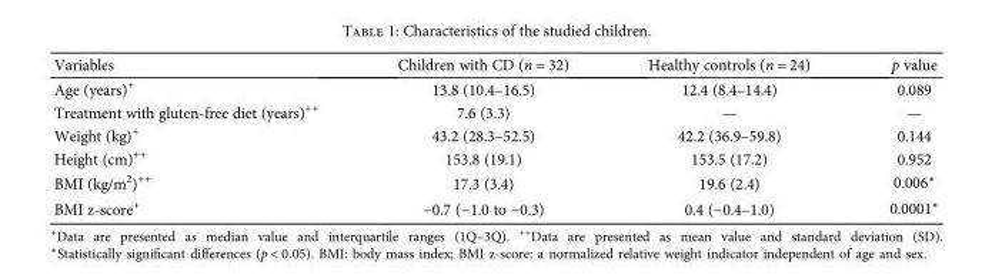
<table><thead><tr><td>Variables</td><td>Children with CD (n = 32)</td><td>Healthy controls (n = 24)</td><td>p value</td></tr></thead><tbody><tr><td>Age (years)<sup>+</sup></td><td>13.8 (10.4–16.5)</td><td>12.4 (8.4–14.4)</td><td>0.089</td></tr><tr><td>Treatment with gluten-free diet (years)<sup>++</sup></td><td>7.6 (3.3)</td><td>—</td><td>—</td></tr><tr><td>Weight (kg)<sup>+</sup></td><td>43.2 (28.3–52.5)</td><td>42.2 (36.9–59.8)</td><td>0.144</td></tr><tr><td>Height (cm)<sup>++</sup></td><td>153.8 (19.1)</td><td>153.5 (17.2)</td><td>0.952</td></tr><tr><td>BMI (kg/m<sup>2</sup>)<sup>++</sup></td><td>17.3 (3.4)</td><td>19.6 (2.4)</td><td>0.006∗</td></tr><tr><td>BMI z-score<sup>+</sup></td><td>−0.7 (−1.0 to −0.3)</td><td>0.4 (−0.4–1.0)</td><td>0.0001∗</td></tr></tbody></table>